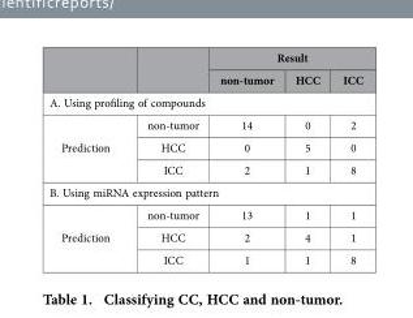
<table><thead><tr><td rowspan="2"></td><td rowspan="2"></td><td colspan="3">Result</td></tr><tr><td>non-tumor</td><td>HCC</td><td>ICC</td></tr></thead><tbody><tr><td colspan="5">A. Using profiling of compounds</td></tr><tr><td rowspan="3">Prediction</td><td>non-tumor</td><td>14</td><td>0</td><td>2</td></tr><tr><td>HCC</td><td>0</td><td>5</td><td>0</td></tr><tr><td>ICC</td><td>2</td><td>1</td><td>8</td></tr><tr><td colspan="5">B. Using miRNA expression pattern</td></tr><tr><td rowspan="3">Prediction</td><td>non-tumor</td><td>13</td><td>1</td><td>1</td></tr><tr><td>HCC</td><td>2</td><td>4</td><td>1</td></tr><tr><td>ICC</td><td>1</td><td>1</td><td>8</td></tr></tbody></table>